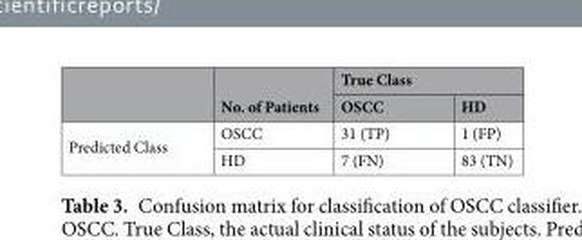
<table><thead><tr><td rowspan="2"></td><td rowspan="2">No. of Patients</td><td colspan="2">True Class</td></tr><tr><td>OSCC</td><td>HD</td></tr></thead><tbody><tr><td rowspan="2">Predicted Class</td><td>OSCC</td><td>31 (TP)</td><td>1 (FP)</td></tr><tr><td>HD</td><td>7 (FN)</td><td>83 (TN)</td></tr></tbody></table>